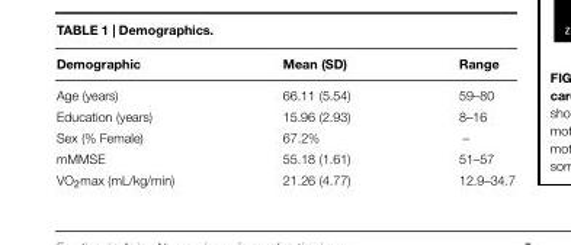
<table><thead><tr><td>Demographic</td><td>Mean (SD)</td><td>Range</td></tr></thead><tbody><tr><td>Age (years)</td><td>66.11 (5.54)</td><td>59–80</td></tr><tr><td>Education (years)</td><td>15.96 (2.93)</td><td>8–16</td></tr><tr><td>Sex (% Female)</td><td>67.2%</td><td>–</td></tr><tr><td>mMMSE</td><td>55.18 (1.61)</td><td>51–57</td></tr><tr><td>VO<sub>2</sub>max (mL/kg/min)</td><td>21.26 (4.77)</td><td>12.9–34.7</td></tr></tbody></table>